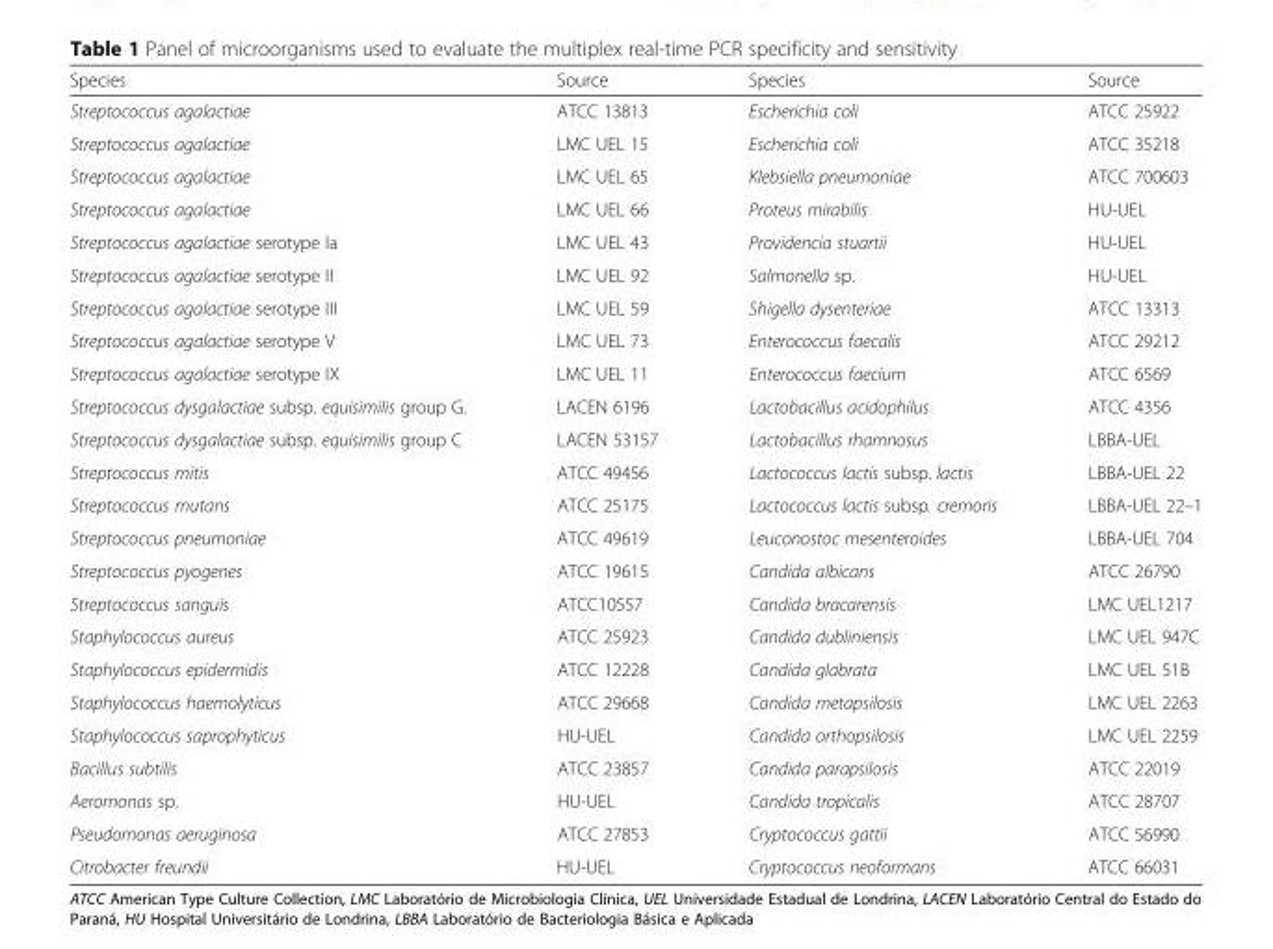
<table><thead><tr><td>Species</td><td>Source</td><td>Species</td><td>Source</td></tr></thead><tbody><tr><td>Streptococcus agalactiae</td><td>ATCC 13813</td><td>Escherichia coli</td><td>ATCC 25922</td></tr><tr><td>Streptococcus agalactiae</td><td>LMC UEL 15</td><td>Escherichia coli</td><td>ATCC 35218</td></tr><tr><td>Streptococcus agalactiae</td><td>LMC UEL 65</td><td>Klebsiella pneumoniae</td><td>ATCC 700603</td></tr><tr><td>Streptococcus agalactiae</td><td>LMC UEL 66</td><td>Proteus mirabilis</td><td>HU-UEL</td></tr><tr><td>Streptococcus agalactiae serotype Ia</td><td>LMC UEL 43</td><td>Providencia stuartii</td><td>HU-UEL</td></tr><tr><td>Streptococcus agalactiae serotype II</td><td>LMC UEL 92</td><td>Salmonella sp.</td><td>HU-UEL</td></tr><tr><td>Streptococcus agalactiae serotype III</td><td>LMC UEL 59</td><td>Shigella dysenteriae</td><td>ATCC 13313</td></tr><tr><td>Streptococcus agalactiae serotype V</td><td>LMC UEL 73</td><td>Enterococcus faecalis</td><td>ATCC 29212</td></tr><tr><td>Streptococcus agalactiae serotype IX</td><td>LMC UEL 11</td><td>Enterococcus faecium</td><td>ATCC 6569</td></tr><tr><td>Streptococcus dysgalactiae subsp. equisimilis group G.</td><td>LACEN 6196</td><td>Lactobacillus acidophilus</td><td>ATCC 4356</td></tr><tr><td>Streptococcus dysgalactiae subsp. equisimilis group C</td><td>LACEN 53157</td><td>Lactobacillus rhamnosus</td><td>LBBA-UEL</td></tr><tr><td>Streptococcus mitis</td><td>ATCC 49456</td><td>Lactococcus lactis subsp. lactis</td><td>LBBA-UEL 22</td></tr><tr><td>Streptococcus mutans</td><td>ATCC 25175</td><td>Lactococcus lactis subsp. cremoris</td><td>LBBA-UEL 22–1</td></tr><tr><td>Streptococcus pneumoniae</td><td>ATCC 49619</td><td>Leuconostoc mesenteroides</td><td>LBBA-UEL 704</td></tr><tr><td>Streptococcus pyogenes</td><td>ATCC 19615</td><td>Candida albicans</td><td>ATCC 26790</td></tr><tr><td>Streptococcus sanguis</td><td>ATCC10557</td><td>Candida bracarensis</td><td>LMC UEL1217</td></tr><tr><td>Staphylococcus aureus</td><td>ATCC 25923</td><td>Candida dubliniensis</td><td>LMC UEL 947C</td></tr><tr><td>Staphylococcus epidermidis</td><td>ATCC 12228</td><td>Candida glabrata</td><td>LMC UEL 51B</td></tr><tr><td>Staphylococcus haemolyticus</td><td>ATCC 29668</td><td>Candida metapsilosis</td><td>LMC UEL 2263</td></tr><tr><td>Staphylococcus saprophyticus</td><td>HU-UEL</td><td>Candida orthopsilosis</td><td>LMC UEL 2259</td></tr><tr><td>Bacillus subtilis</td><td>ATCC 23857</td><td>Candida parapsilosis</td><td>ATCC 22019</td></tr><tr><td>Aeromonas sp.</td><td>HU-UEL</td><td>Candida tropicalis</td><td>ATCC 28707</td></tr><tr><td>Pseudomonas aeruginosa</td><td>ATCC 27853</td><td>Cryptococcus gattii</td><td>ATCC 56990</td></tr><tr><td>Citrobacter freundii</td><td>HU-UEL</td><td>Cryptococcus neoformans</td><td>ATCC 66031</td></tr></tbody></table>